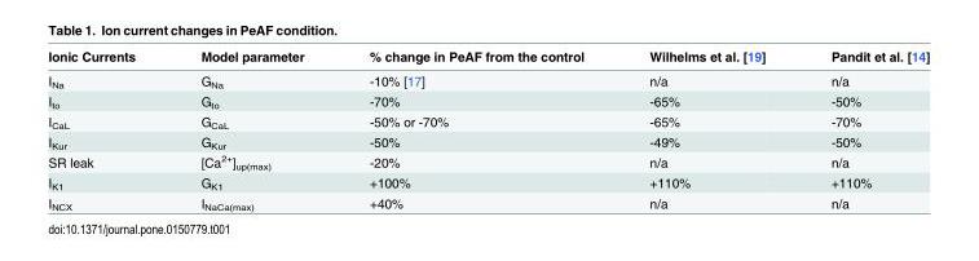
<table><thead><tr><td>Ionic Currents</td><td>Model parameter</td><td>% change in PeAF from the control</td><td>Wilhelms et al. [19]</td><td>Pandit et al. [14]</td></tr></thead><tbody><tr><td>I<sub>Na</sub></td><td>G<sub>Na</sub></td><td>-10% [17]</td><td>n/a</td><td>n/a</td></tr><tr><td>I<sub>to</sub></td><td>G<sub>to</sub></td><td>-70%</td><td>-65%</td><td>-50%</td></tr><tr><td>I<sub>CaL</sub></td><td>G<sub>CaL</sub></td><td>-50% or -70%</td><td>-65%</td><td>-70%</td></tr><tr><td>I<sub>Kur</sub></td><td>G<sub>Kur</sub></td><td>-50%</td><td>-49%</td><td>-50%</td></tr><tr><td>SR leak</td><td>[Ca<sup>2+</sup>]<sub>up(max)</sub></td><td>-20%</td><td>n/a</td><td>n/a</td></tr><tr><td>I<sub>K1</sub></td><td>G<sub>K1</sub></td><td>+100%</td><td>+110%</td><td>+110%</td></tr><tr><td>I<sub>NCX</sub></td><td>I<sub>NaCa(max)</sub></td><td>+40%</td><td>n/a</td><td>n/a</td></tr></tbody></table>